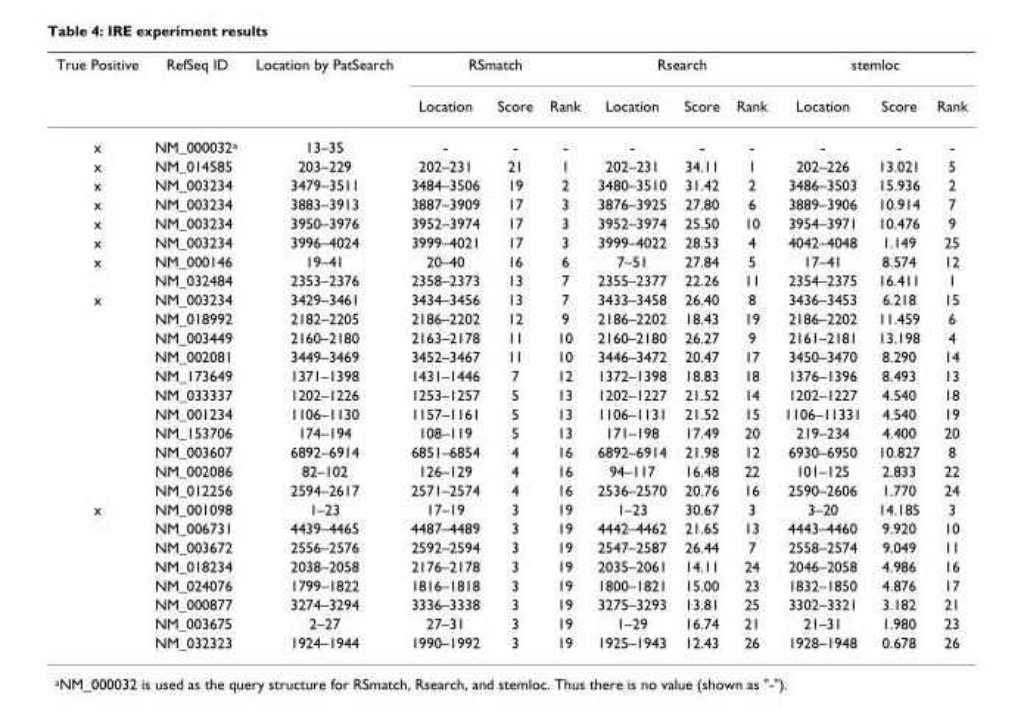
<table><thead><tr><td rowspan="2">True Positive</td><td rowspan="2">RefSeq ID</td><td rowspan="2">Location by PatSearch</td><td colspan="3">RSmatch</td><td colspan="3">Rsearch</td><td colspan="3">stemloc</td></tr><tr><td>Location</td><td>Score</td><td>Rank</td><td>Location</td><td>Score</td><td>Rank</td><td>Location</td><td>Score</td><td>Rank</td></tr></thead><tbody><tr><td>x</td><td>NM_000032a</td><td>13–35</td><td>-</td><td>-</td><td>-</td><td>-</td><td>-</td><td>-</td><td>-</td><td>-</td><td>-</td></tr><tr><td>x</td><td>NM_014585</td><td>203–229</td><td>202–231</td><td>21</td><td>1</td><td>202–231</td><td>34.11</td><td>1</td><td>202–226</td><td>13.021</td><td>5</td></tr><tr><td>x</td><td>NM_003234</td><td>3479–3511</td><td>3484–3506</td><td>19</td><td>2</td><td>3480–3510</td><td>31.42</td><td>2</td><td>3486–3503</td><td>15.936</td><td>2</td></tr><tr><td>x</td><td>NM_003234</td><td>3883–3913</td><td>3887–3909</td><td>17</td><td>3</td><td>3876–3925</td><td>27.80</td><td>6</td><td>3889–3906</td><td>10.914</td><td>7</td></tr><tr><td>x</td><td>NM_003234</td><td>3950–3976</td><td>3952–3974</td><td>17</td><td>3</td><td>3952–3974</td><td>25.50</td><td>10</td><td>3954–3971</td><td>10.476</td><td>9</td></tr><tr><td>x</td><td>NM_003234</td><td>3996–4024</td><td>3999–4021</td><td>17</td><td>3</td><td>3999–4022</td><td>28.53</td><td>4</td><td>4042–4048</td><td>1.149</td><td>25</td></tr><tr><td rowspan="2">x</td><td>NM_000146</td><td>19–41</td><td>20–40</td><td>16</td><td>6</td><td>7–51</td><td>27.84</td><td>5</td><td>17–41</td><td>8.574</td><td>12</td></tr><tr><td>NM_032484</td><td>2353–2376</td><td>2358–2373</td><td>13</td><td>7</td><td>2355–2377</td><td>22.26</td><td>11</td><td>2354–2375</td><td>16.411</td><td>1</td></tr><tr><td rowspan="11">x</td><td>NM_003234</td><td>3429–3461</td><td>3434–3456</td><td>13</td><td>7</td><td>3433–3458</td><td>26.40</td><td>8</td><td>3436–3453</td><td>6.218</td><td>15</td></tr><tr><td>NM_018992</td><td>2182–2205</td><td>2186–2202</td><td>12</td><td>9</td><td>2186–2202</td><td>18.43</td><td>19</td><td>2186–2202</td><td>11.459</td><td>6</td></tr><tr><td>NM_003449</td><td>2160–2180</td><td>2163–2178</td><td>11</td><td>10</td><td>2160–2180</td><td>26.27</td><td>9</td><td>2161–2181</td><td>13.198</td><td>4</td></tr><tr><td>NM_002081</td><td>3449–3469</td><td>3452–3467</td><td>11</td><td>10</td><td>3446–3472</td><td>20.47</td><td>17</td><td>3450–3470</td><td>8.290</td><td>14</td></tr><tr><td>NM_173649</td><td>1371–1398</td><td>1431–1446</td><td>7</td><td>12</td><td>1372–1398</td><td>18.83</td><td>18</td><td>1376–1396</td><td>8.493</td><td>13</td></tr><tr><td>NM_033337</td><td>1202–1226</td><td>1253–1257</td><td>5</td><td>13</td><td>1202–1227</td><td>21.52</td><td>14</td><td>1202–1227</td><td>4.540</td><td>18</td></tr><tr><td>NM_001234</td><td>1106–1130</td><td>1157–1161</td><td>5</td><td>13</td><td>1106–1131</td><td>21.52</td><td>15</td><td>1106–11331</td><td>4.540</td><td>19</td></tr><tr><td>NM_153706</td><td>174–194</td><td>108–119</td><td>5</td><td>13</td><td>171–198</td><td>17.49</td><td>20</td><td>219–234</td><td>4.400</td><td>20</td></tr><tr><td>NM_003607</td><td>6892–6914</td><td>6851–6854</td><td>4</td><td>16</td><td>6892–6914</td><td>21.98</td><td>12</td><td>6930–6950</td><td>10.827</td><td>8</td></tr><tr><td>NM_002086</td><td>82–102</td><td>126–129</td><td>4</td><td>16</td><td>94–117</td><td>16.48</td><td>22</td><td>101–125</td><td>2.833</td><td>22</td></tr><tr><td>NM_012256</td><td>2594–2617</td><td>2571–2574</td><td>4</td><td>16</td><td>2536–2570</td><td>20.76</td><td>16</td><td>2590–2606</td><td>1.770</td><td>24</td></tr><tr><td rowspan="8">x</td><td>NM_001098</td><td>1–23</td><td>17–19</td><td>3</td><td>19</td><td>1–23</td><td>30.67</td><td>3</td><td>3–20</td><td>14.185</td><td>3</td></tr><tr><td>NM_006731</td><td>4439–4465</td><td>4487–4489</td><td>3</td><td>19</td><td>4442–4462</td><td>21.65</td><td>13</td><td>4443–4460</td><td>9.920</td><td>10</td></tr><tr><td>NM_003672</td><td>2556–2576</td><td>2592–2594</td><td>3</td><td>19</td><td>2547–2587</td><td>26.44</td><td>7</td><td>2558–2574</td><td>9.049</td><td>11</td></tr><tr><td>NM_018234</td><td>2038–2058</td><td>2176–2178</td><td>3</td><td>19</td><td>2035–2061</td><td>14.11</td><td>24</td><td>2046–2058</td><td>4.986</td><td>16</td></tr><tr><td>NM_024076</td><td>1799–1822</td><td>1816–1818</td><td>3</td><td>19</td><td>1800–1821</td><td>15.00</td><td>23</td><td>1832–1850</td><td>4.876</td><td>17</td></tr><tr><td>NM_000877</td><td>3274–3294</td><td>3336–3338</td><td>3</td><td>19</td><td>3275–3293</td><td>13.81</td><td>25</td><td>3302–3321</td><td>3.182</td><td>21</td></tr><tr><td>NM_003675</td><td>2–27</td><td>27–31</td><td>3</td><td>19</td><td>1–29</td><td>16.74</td><td>21</td><td>21–31</td><td>1.980</td><td>23</td></tr><tr><td>NM_032323</td><td>1924–1944</td><td>1990–1992</td><td>3</td><td>19</td><td>1925–1943</td><td>12.43</td><td>26</td><td>1928–1948</td><td>0.678</td><td>26</td></tr></tbody></table>